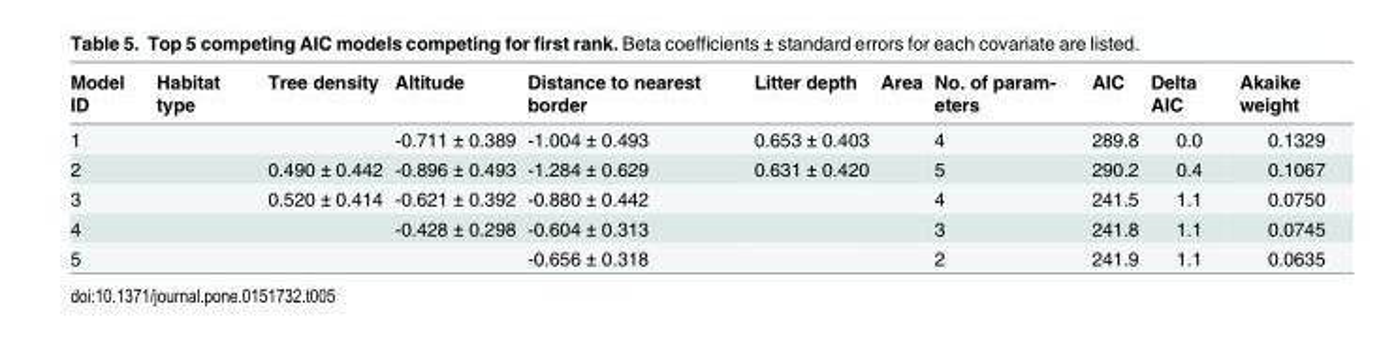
<table><thead><tr><td>Model ID</td><td>Habitat type</td><td>Tree density</td><td>Altitude</td><td>Distance to nearest border</td><td>Litter depth</td><td>Area</td><td>No. of param- eters</td><td>AIC</td><td>Delta AIC</td><td>Akaike weight</td></tr></thead><tbody><tr><td>1</td><td></td><td></td><td>-0.711 ± 0.389</td><td>-1.004 ± 0.493</td><td>0.653 ± 0.403</td><td></td><td>4</td><td>289.8</td><td>0.0</td><td>0.1329</td></tr><tr><td>2</td><td></td><td>0.490 ± 0.442</td><td>-0.896 ± 0.493</td><td>-1.284 ± 0.629</td><td>0.631 ± 0.420</td><td></td><td>5</td><td>290.2</td><td>0.4</td><td>0.1067</td></tr><tr><td>3</td><td></td><td>0.520 ± 0.414</td><td>-0.621 ± 0.392</td><td>-0.880 ± 0.442</td><td></td><td></td><td>4</td><td>241.5</td><td>1.1</td><td>0.0750</td></tr><tr><td>4</td><td></td><td></td><td>-0.428 ± 0.298</td><td>-0.604 ± 0.313</td><td></td><td></td><td>3</td><td>241.8</td><td>1.1</td><td>0.0745</td></tr><tr><td>5</td><td></td><td></td><td></td><td>-0.656 ± 0.318</td><td></td><td></td><td>2</td><td>241.9</td><td>1.1</td><td>0.0635</td></tr></tbody></table>